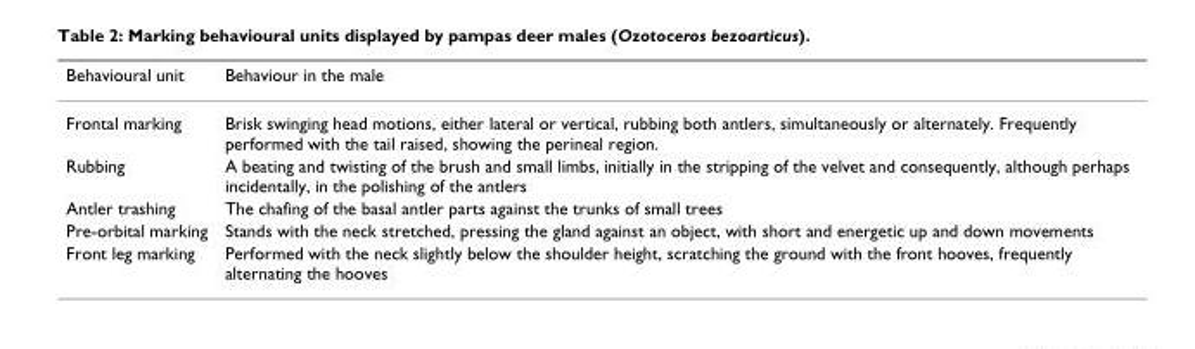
<table><thead><tr><td>Behavioural unit</td><td>Behaviour in the male</td></tr></thead><tbody><tr><td>Frontal marking</td><td>Brisk swinging head motions, either lateral or vertical, rubbing both antlers, simultaneously or alternately. Frequently performed with the tail raised, showing the perineal region.</td></tr><tr><td>Rubbing</td><td>A beating and twisting of the brush and small limbs, initially in the stripping of the velvet and consequently, although perhaps incidentally, in the polishing of the antlers</td></tr><tr><td>Antler trashing</td><td>The chafing of the basal antler parts against the trunks of small trees</td></tr><tr><td>Pre-orbital marking</td><td>Stands with the neck stretched, pressing the gland against an object, with short and energetic up and down movements</td></tr><tr><td>Front leg marking</td><td>Performed with the neck slightly below the shoulder height, scratching the ground with the front hooves, frequently alternating the hooves</td></tr></tbody></table>